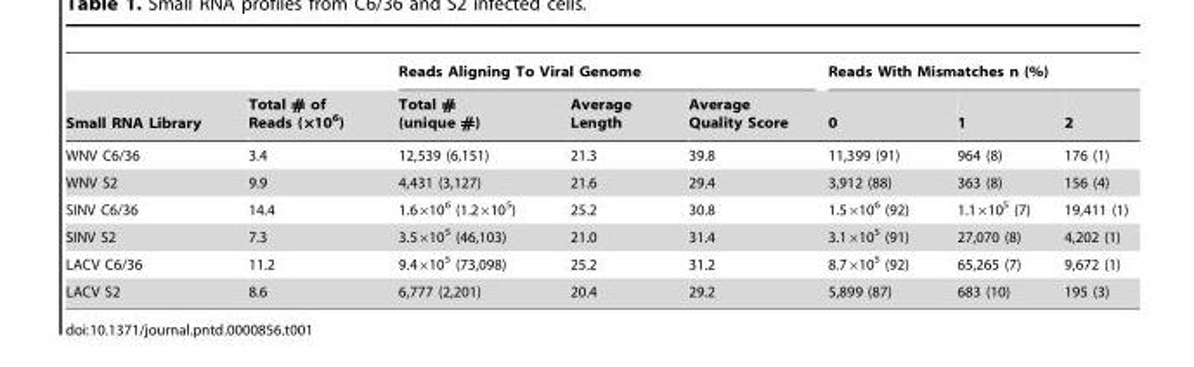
<table><thead><tr><td rowspan="2">Small RNA Library</td><td rowspan="2">Total # of Reads (×10<sup>6</sup>)</td><td colspan="3">Reads Aligning To Viral Genome</td><td colspan="3">Reads With Mismatches n (%)</td></tr><tr><td>Total # (unique #)</td><td>Average Length</td><td>Average Quality Score</td><td>0</td><td>1</td><td>2</td></tr></thead><tbody><tr><td>WNV C6/36</td><td>3.4</td><td>12,539 (6,151)</td><td>21.3</td><td>39.8</td><td>11,399 (91)</td><td>964 (8)</td><td>176 (1)</td></tr><tr><td>WNV S2</td><td>9.9</td><td>4,431 (3,127)</td><td>21.6</td><td>29.4</td><td>3,912 (88)</td><td>363 (8)</td><td>156 (4)</td></tr><tr><td>SINV C6/36</td><td>14.4</td><td>1.6×10<sup>6</sup> (1.2×10<sup>5</sup>)</td><td>25.2</td><td>30.8</td><td>1.5×10<sup>6</sup> (92)</td><td>1.1×10<sup>5</sup> (7)</td><td>19,411 (1)</td></tr><tr><td>SINV S2</td><td>7.3</td><td>3.5×10<sup>5</sup> (46,103)</td><td>21.0</td><td>31.4</td><td>3.1×10<sup>5</sup> (91)</td><td>27,070 (8)</td><td>4,202 (1)</td></tr><tr><td>LACV C6/36</td><td>11.2</td><td>9.4×10<sup>5</sup> (73,098)</td><td>25.2</td><td>31.2</td><td>8.7×10<sup>5</sup> (92)</td><td>65,265 (7)</td><td>9,672 (1)</td></tr><tr><td>LACV S2</td><td>8.6</td><td>6,777 (2,201)</td><td>20.4</td><td>29.2</td><td>5,899 (87)</td><td>683 (10)</td><td>195 (3)</td></tr></tbody></table>